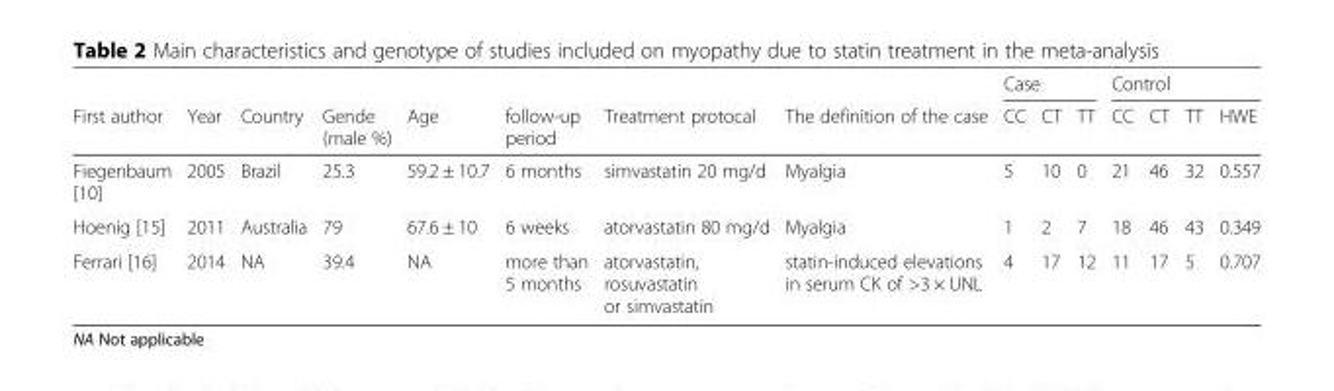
<table><thead><tr><td rowspan="2">First author</td><td rowspan="2">Year</td><td rowspan="2">Country</td><td rowspan="2">Gende (male %)</td><td rowspan="2">Age</td><td rowspan="2">follow-up period</td><td rowspan="2">Treatment protocal</td><td rowspan="2">The definition of the case</td><td colspan="3">Case</td><td colspan="4">Control</td></tr><tr><td>CC</td><td>CT</td><td>TT</td><td>CC</td><td>CT</td><td>TT</td><td>HWE</td></tr></thead><tbody><tr><td>Fiegenbaum [10]</td><td>2005</td><td>Brazil</td><td>25.3</td><td>59.2 ± 10.7</td><td>6 months</td><td>simvastatin 20 mg/d</td><td>Myalgia</td><td>5</td><td>10</td><td>0</td><td>21</td><td>46</td><td>32</td><td>0.557</td></tr><tr><td>Hoenig [15]</td><td>2011</td><td>Australia</td><td>79</td><td>67.6 ± 10</td><td>6 weeks</td><td>atorvastatin 80 mg/d</td><td>Myalgia</td><td>1</td><td>2</td><td>7</td><td>18</td><td>46</td><td>43</td><td>0.349</td></tr><tr><td>Ferrari [16]</td><td>2014</td><td>NA</td><td>39.4</td><td>NA</td><td>more than 5 months</td><td>atorvastatin, rosuvastatin or simvastatin</td><td>statin-induced elevations in serum CK of &gt;3 × UNL</td><td>4</td><td>17</td><td>12</td><td>11</td><td>17</td><td>5</td><td>0.707</td></tr></tbody></table>